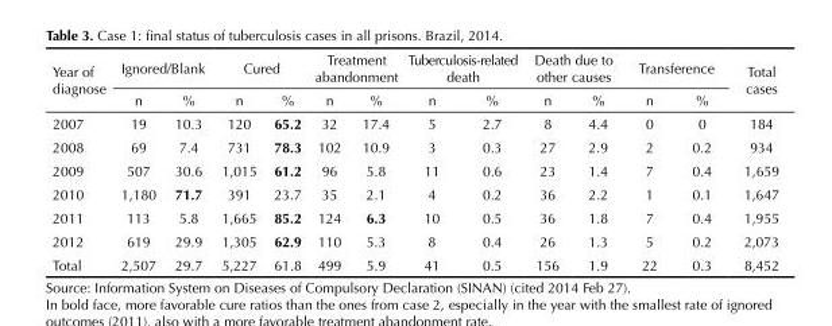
<table><thead><tr><td rowspan="2">Year of diagnose</td><td colspan="2">Ignored/Blank</td><td colspan="2">Cured</td><td colspan="2">Treatment abandonment</td><td colspan="2">Tuberculosis-related death</td><td colspan="2">Death due to other causes</td><td colspan="2">Transference</td><td rowspan="2">Total cases</td></tr><tr><td>n</td><td>%</td><td>n</td><td>%</td><td>n</td><td>%</td><td>n</td><td>%</td><td>n</td><td>%</td><td>n</td><td>%</td></tr></thead><tbody><tr><td>2007</td><td>19</td><td>10.3</td><td>120</td><td>65.2</td><td>32</td><td>17.4</td><td>5</td><td>2.7</td><td>8</td><td>4.4</td><td>0</td><td>0</td><td>184</td></tr><tr><td>2008</td><td>69</td><td>7.4</td><td>731</td><td>78.3</td><td>102</td><td>10.9</td><td>3</td><td>0.3</td><td>27</td><td>2.9</td><td>2</td><td>0.2</td><td>934</td></tr><tr><td>2009</td><td>507</td><td>30.6</td><td>1,015</td><td>61.2</td><td>96</td><td>5.8</td><td>11</td><td>0.6</td><td>23</td><td>1.4</td><td>7</td><td>0.4</td><td>1,659</td></tr><tr><td>2010</td><td>1,180</td><td>71.7</td><td>391</td><td>23.7</td><td>35</td><td>2.1</td><td>4</td><td>0.2</td><td>36</td><td>2.2</td><td>1</td><td>0.1</td><td>1,647</td></tr><tr><td>2011</td><td>113</td><td>5.8</td><td>1,665</td><td>85.2</td><td>124</td><td>6.3</td><td>10</td><td>0.5</td><td>36</td><td>1.8</td><td>7</td><td>0.4</td><td>1,955</td></tr><tr><td>2012</td><td>619</td><td>29.9</td><td>1,305</td><td>62.9</td><td>110</td><td>5.3</td><td>8</td><td>0.4</td><td>26</td><td>1.3</td><td>5</td><td>0.2</td><td>2,073</td></tr><tr><td>Total</td><td>2,507</td><td>29.7</td><td>5,227</td><td>61.8</td><td>499</td><td>5.9</td><td>41</td><td>0.5</td><td>156</td><td>1.9</td><td>22</td><td>0.3</td><td>8,452</td></tr></tbody></table>